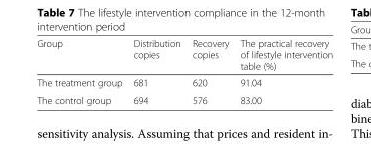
<table><thead><tr><td>Group</td><td>Distribution copies</td><td>Recovery copies</td><td>The practical recovery of lifestyle intervention table (%)</td></tr></thead><tbody><tr><td>The treatment group</td><td>681</td><td>620</td><td>91.04</td></tr><tr><td>The control group</td><td>694</td><td>576</td><td>83.00</td></tr></tbody></table>